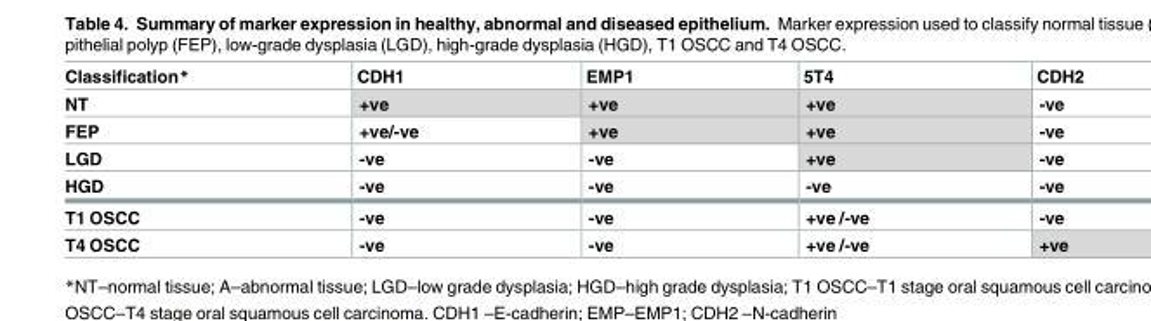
<table><thead><tr><td>Classification*</td><td>CDH1</td><td>EMP1</td><td>5T4</td><td>CDH2</td></tr></thead><tbody><tr><td>NT</td><td>+ve</td><td>+ve</td><td>+ve</td><td>-ve</td></tr><tr><td>FEP</td><td>+ve/-ve</td><td>+ve</td><td>+ve</td><td>-ve</td></tr><tr><td>LGD</td><td>-ve</td><td>-ve</td><td>+ve</td><td>-ve</td></tr><tr><td>HGD</td><td>-ve</td><td>-ve</td><td>-ve</td><td>-ve</td></tr><tr><td>T1 OSCC</td><td>-ve</td><td>-ve</td><td>+ve /-ve</td><td>-ve</td></tr><tr><td>T4 OSCC</td><td>-ve</td><td>-ve</td><td>+ve /-ve</td><td>+ve</td></tr></tbody></table>